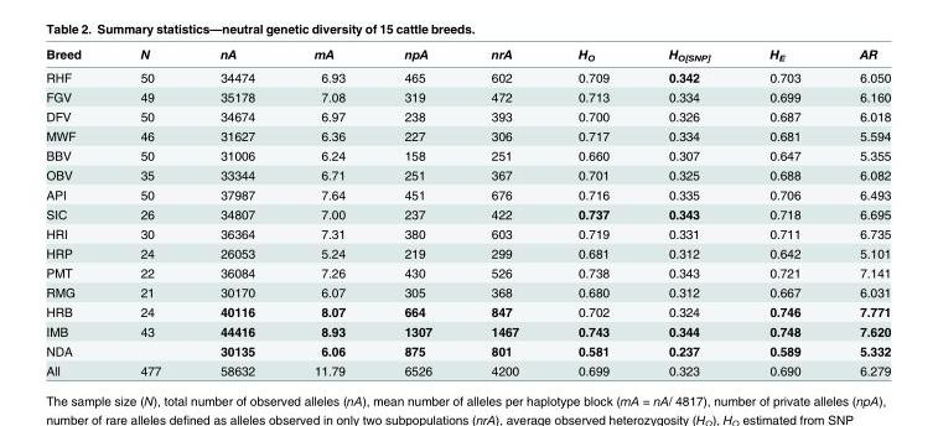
<table><thead><tr><td>Breed</td><td>N</td><td>nA</td><td>mA</td><td>npA</td><td>nrA</td><td>H<sub>O</sub></td><td>H<sub>O[SNP]</sub></td><td>H<sub>E</sub></td><td>AR</td></tr></thead><tbody><tr><td>RHF</td><td>50</td><td>34474</td><td>6.93</td><td>465</td><td>602</td><td>0.709</td><td>0.342</td><td>0.703</td><td>6.050</td></tr><tr><td>FGV</td><td>49</td><td>35178</td><td>7.08</td><td>319</td><td>472</td><td>0.713</td><td>0.334</td><td>0.699</td><td>6.160</td></tr><tr><td>DFV</td><td>50</td><td>34674</td><td>6.97</td><td>238</td><td>393</td><td>0.700</td><td>0.326</td><td>0.687</td><td>6.018</td></tr><tr><td>MWF</td><td>46</td><td>31627</td><td>6.36</td><td>227</td><td>306</td><td>0.717</td><td>0.334</td><td>0.681</td><td>5.594</td></tr><tr><td>BBV</td><td>50</td><td>31006</td><td>6.24</td><td>158</td><td>251</td><td>0.660</td><td>0.307</td><td>0.647</td><td>5.355</td></tr><tr><td>OBV</td><td>35</td><td>33344</td><td>6.71</td><td>251</td><td>367</td><td>0.701</td><td>0.325</td><td>0.688</td><td>6.082</td></tr><tr><td>API</td><td>50</td><td>37987</td><td>7.64</td><td>451</td><td>676</td><td>0.716</td><td>0.335</td><td>0.706</td><td>6.493</td></tr><tr><td>SIC</td><td>26</td><td>34807</td><td>7.00</td><td>237</td><td>422</td><td>0.737</td><td>0.343</td><td>0.718</td><td>6.695</td></tr><tr><td>HRI</td><td>30</td><td>36364</td><td>7.31</td><td>380</td><td>603</td><td>0.719</td><td>0.331</td><td>0.711</td><td>6.735</td></tr><tr><td>HRP</td><td>24</td><td>26053</td><td>5.24</td><td>219</td><td>299</td><td>0.681</td><td>0.312</td><td>0.642</td><td>5.101</td></tr><tr><td>PMT</td><td>22</td><td>36084</td><td>7.26</td><td>430</td><td>526</td><td>0.738</td><td>0.343</td><td>0.721</td><td>7.141</td></tr><tr><td>RMG</td><td>21</td><td>30170</td><td>6.07</td><td>305</td><td>368</td><td>0.680</td><td>0.312</td><td>0.667</td><td>6.031</td></tr><tr><td>HRB</td><td>24</td><td>40116</td><td>8.07</td><td>664</td><td>847</td><td>0.702</td><td>0.324</td><td>0.746</td><td>7.771</td></tr><tr><td>IMB</td><td>43</td><td>44416</td><td>8.93</td><td>1307</td><td>1467</td><td>0.743</td><td>0.344</td><td>0.748</td><td>7.620</td></tr><tr><td>NDA</td><td></td><td>30135</td><td>6.06</td><td>875</td><td>801</td><td>0.581</td><td>0.237</td><td>0.589</td><td>5.332</td></tr><tr><td>All</td><td>477</td><td>58632</td><td>11.79</td><td>6526</td><td>4200</td><td>0.699</td><td>0.323</td><td>0.690</td><td>6.279</td></tr></tbody></table>